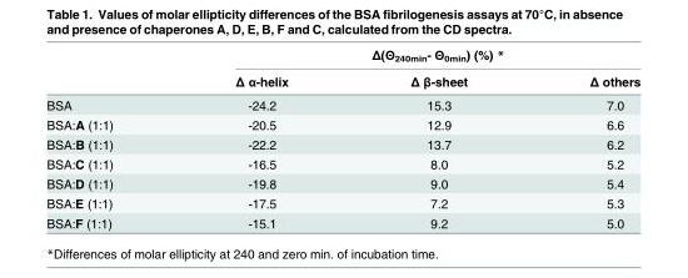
<table><thead><tr><td rowspan="2"></td><td colspan="3">Δ(Θ<sub>240min</sub>- Θ<sub>0min</sub>) (%) *</td></tr><tr><td>Δ α-helix</td><td>Δ β-sheet</td><td>Δ others</td></tr></thead><tbody><tr><td>BSA</td><td>-24.2</td><td>15.3</td><td>7.0</td></tr><tr><td>BSA:A (1:1)</td><td>-20.5</td><td>12.9</td><td>6.6</td></tr><tr><td>BSA:B (1:1)</td><td>-22.2</td><td>13.7</td><td>6.2</td></tr><tr><td>BSA:C (1:1)</td><td>-16.5</td><td>8.0</td><td>5.2</td></tr><tr><td>BSA:D (1:1)</td><td>-19.8</td><td>9.0</td><td>5.4</td></tr><tr><td>BSA:E (1:1)</td><td>-17.5</td><td>7.2</td><td>5.3</td></tr><tr><td>BSA:F (1:1)</td><td>-15.1</td><td>9.2</td><td>5.0</td></tr></tbody></table>